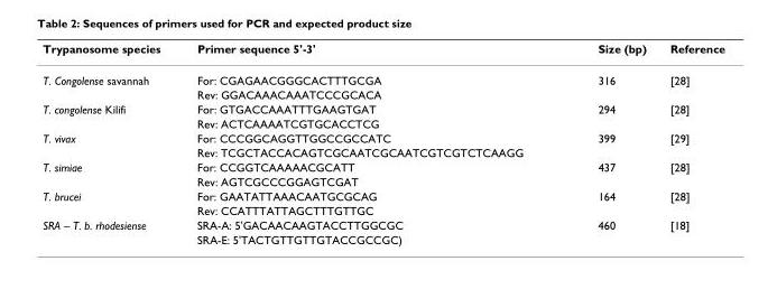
<table><thead><tr><td>Trypanosome species</td><td>Primer sequence 5&#x27;-3&#x27;</td><td>Size (bp)</td><td>Reference</td></tr></thead><tbody><tr><td rowspan="2">T. Congolense savannah</td><td>For: CGAGAACGGGCACTTTGCGA</td><td>316</td><td>[28]</td></tr><tr><td>Rev: GGACAAACAAATCCCGCACA</td><td></td><td></td></tr><tr><td rowspan="2">T. congolense Kilifi</td><td>For: GTGACCAAATTTGAAGTGAT</td><td>294</td><td>[28]</td></tr><tr><td>Rev: ACTCAAAATCGTGCACCTCG</td><td></td><td></td></tr><tr><td rowspan="2">T. vivax</td><td>For: CCCGGCAGGTTGGCCGCCATC</td><td>399</td><td>[29]</td></tr><tr><td>Rev: TCGCTACCACAGTCGCAATCGCAATCGTCGTCTCAAGG</td><td></td><td></td></tr><tr><td rowspan="2">T. simiae</td><td>For: CCGGTCAAAAACGCATT</td><td>437</td><td>[28]</td></tr><tr><td>Rev: AGTCGCCCGGAGTCGAT</td><td></td><td></td></tr><tr><td rowspan="2">T. brucei</td><td>For: GAATATTAAACAATGCGCAG</td><td>164</td><td>[28]</td></tr><tr><td>Rev: CCATTTATTAGCTTTGTTGC</td><td></td><td></td></tr><tr><td rowspan="2">SRA – T. b. rhodesiense</td><td>SRA-A: 5&#x27;GACAACAAGTACCTTGGCGC</td><td>460</td><td>[18]</td></tr><tr><td>SRA-E: 5&#x27;TACTGTTGTTGTACCGCCGC)</td><td></td><td></td></tr></tbody></table>